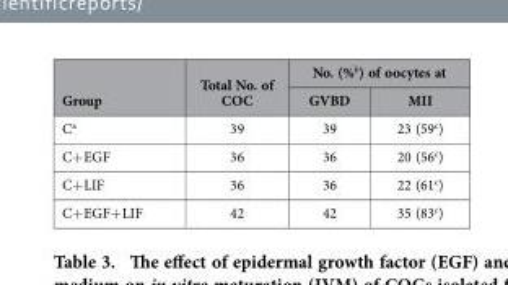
<table><thead><tr><td rowspan="2">Group</td><td rowspan="2">Total No. of COC</td><td colspan="2">No. (%<sup>b</sup>) of oocytes at</td></tr><tr><td>GVBD</td><td>MII</td></tr></thead><tbody><tr><td>C<sup>a</sup></td><td>39</td><td>39</td><td>23 (59<sup>c</sup>)</td></tr><tr><td>C+ EGF</td><td>36</td><td>36</td><td>20 (56<sup>c</sup>)</td></tr><tr><td>C+ LIF</td><td>36</td><td>36</td><td>22 (61<sup>c</sup>)</td></tr><tr><td>C+ EGF+ LIF</td><td>42</td><td>42</td><td>35 (83<sup>c</sup>)</td></tr></tbody></table>